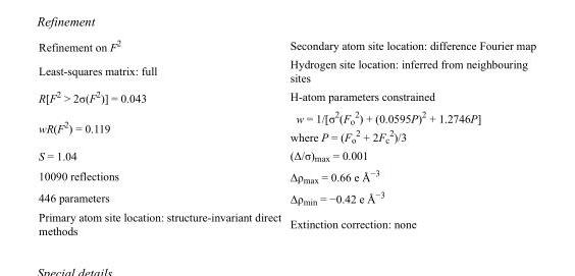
<table><tbody><tr><td>Refinement on F<sup>2</sup></td><td>Secondary atom site location: difference Fourier map</td></tr><tr><td>Least-squares matrix: full</td><td>Hydrogen site location: inferred from neighbouring sites</td></tr><tr><td>R[F<sup>2</sup> &gt; 2σ(F<sup>2</sup>)] = 0.043</td><td>H-atom parameters constrained</td></tr><tr><td>wR(F<sup>2</sup>) = 0.119</td><td>w = 1/[σ<sup>2</sup>(F<sub>o</sub> <sup>2</sup>) + (0.0595P)<sup>2</sup> + 1.2746P] where P = (F<sub>o</sub> <sup>2</sup> + 2F<sub>c</sub> <sup>2</sup>)/3</td></tr><tr><td>S = 1.04</td><td>(Δ/σ)<sub>max</sub> = 0.001</td></tr><tr><td>10090 reflections</td><td>Δρ<sub>max</sub> = 0.66 e Å<sup>−3</sup></td></tr><tr><td>446 parameters</td><td>Δρ<sub>min</sub> = −0.42 e Å<sup>−3</sup></td></tr><tr><td>Primary atom site location: structure-invariant direct methods</td><td>Extinction correction: none</td></tr></tbody></table>